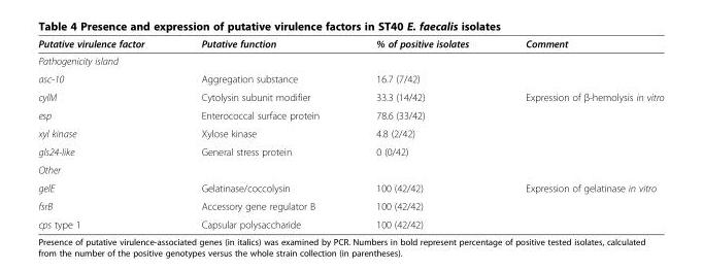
<table><thead><tr><td>Putative virulence factor</td><td>Putative function</td><td>% of positive isolates</td><td>Comment</td></tr></thead><tbody><tr><td colspan="4">Pathogenicity island</td></tr><tr><td>asc-10</td><td>Aggregation substance</td><td>16.7 (7/42)</td><td></td></tr><tr><td>cylM</td><td>Cytolysin subunit modifier</td><td>33.3 (14/42)</td><td>Expression of β-hemolysis in vitro</td></tr><tr><td>esp</td><td>Enterococcal surface protein</td><td>78.6 (33/42)</td><td></td></tr><tr><td>xyl kinase</td><td>Xylose kinase</td><td>4.8 (2/42)</td><td></td></tr><tr><td>gls24-like</td><td>General stress protein</td><td>0 (0/42)</td><td></td></tr><tr><td colspan="4">Other</td></tr><tr><td>gelE</td><td>Gelatinase/coccolysin</td><td>100 (42/42)</td><td>Expression of gelatinase in vitro</td></tr><tr><td>fsrB</td><td>Accessory gene regulator B</td><td>100 (42/42)</td><td></td></tr><tr><td>cps type 1</td><td>Capsular polysaccharide</td><td>100 (42/42)</td><td></td></tr></tbody></table>